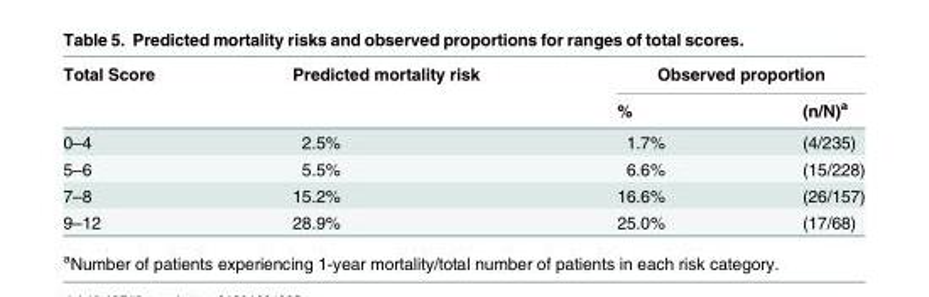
<table><thead><tr><td rowspan="2">Total Score</td><td rowspan="2">Predicted mortality risk</td><td colspan="2">Observed proportion</td></tr><tr><td>%</td><td>(n/N)<sup>a</sup></td></tr></thead><tbody><tr><td>0–4</td><td>2.5%</td><td>1.7%</td><td>(4/235)</td></tr><tr><td>5–6</td><td>5.5%</td><td>6.6%</td><td>(15/228)</td></tr><tr><td>7–8</td><td>15.2%</td><td>16.6%</td><td>(26/157)</td></tr><tr><td>9–12</td><td>28.9%</td><td>25.0%</td><td>(17/68)</td></tr></tbody></table>